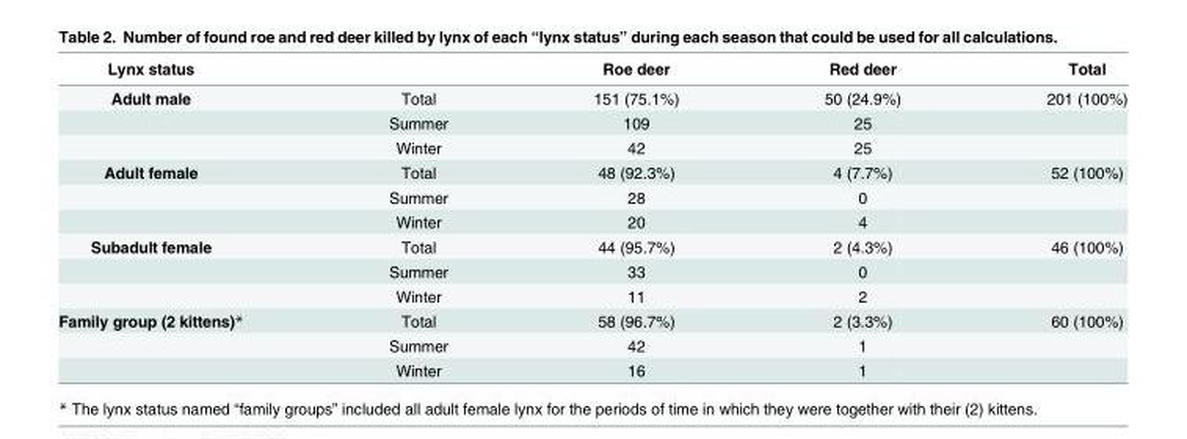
<table><thead><tr><td>Lynx status</td><td></td><td>Roe deer</td><td>Red deer</td><td>Total</td></tr></thead><tbody><tr><td rowspan="3">Adult male</td><td>Total</td><td>151 (75.1%)</td><td>50 (24.9%)</td><td>201 (100%)</td></tr><tr><td>Summer</td><td>109</td><td>25</td><td></td></tr><tr><td>Winter</td><td>42</td><td>25</td><td></td></tr><tr><td rowspan="3">Adult female</td><td>Total</td><td>48 (92.3%)</td><td>4 (7.7%)</td><td>52 (100%)</td></tr><tr><td>Summer</td><td>28</td><td>0</td><td></td></tr><tr><td>Winter</td><td>20</td><td>4</td><td></td></tr><tr><td rowspan="3">Subadult female</td><td>Total</td><td>44 (95.7%)</td><td>2 (4.3%)</td><td>46 (100%)</td></tr><tr><td>Summer</td><td>33</td><td>0</td><td></td></tr><tr><td>Winter</td><td>11</td><td>2</td><td></td></tr><tr><td rowspan="3">Family group (2 kittens)*</td><td>Total</td><td>58 (96.7%)</td><td>2 (3.3%)</td><td>60 (100%)</td></tr><tr><td>Summer</td><td>42</td><td>1</td><td></td></tr><tr><td>Winter</td><td>16</td><td>1</td><td></td></tr></tbody></table>